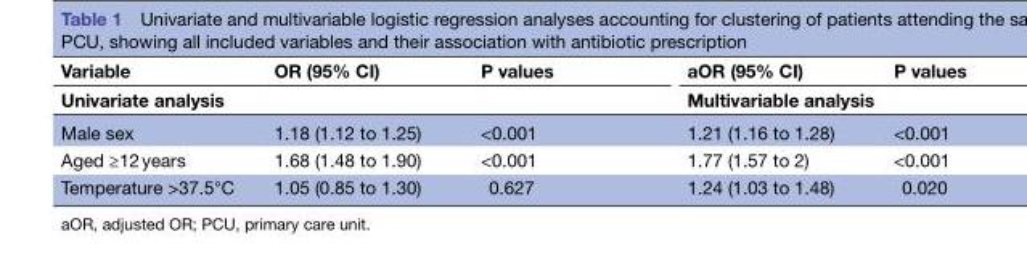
<table><thead><tr><td>Variable</td><td>OR (95% CI)</td><td>P values</td><td>aOR (95% CI)</td><td>P values</td></tr><tr><td colspan="3">Univariate analysis</td><td colspan="2">Multivariable analysis</td></tr></thead><tbody><tr><td>Male sex</td><td>1.18 (1.12 to 1.25)</td><td>&lt;0.001</td><td>1.21 (1.16 to 1.28)</td><td>&lt;0.001</td></tr><tr><td>Aged ≥12 years</td><td>1.68 (1.48 to 1.90)</td><td>&lt;0.001</td><td>1.77 (1.57 to 2)</td><td>&lt;0.001</td></tr><tr><td>Temperature &gt;37.5°C</td><td>1.05 (0.85 to 1.30)</td><td>0.627</td><td>1.24 (1.03 to 1.48)</td><td>0.020</td></tr></tbody></table>